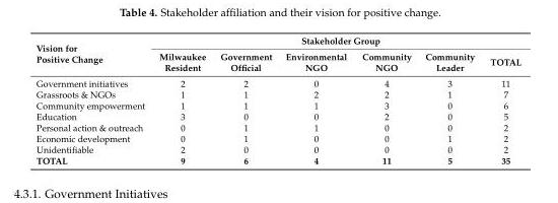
<table><thead><tr><td rowspan="2">Vision for Positive Change</td><td colspan="6">Stakeholder Group</td></tr><tr><td>Milwaukee Resident</td><td>Government Official</td><td>Environmental NGO</td><td>Community NGO</td><td>Community Leader</td><td>TOTAL</td></tr></thead><tbody><tr><td>Government initiatives</td><td>2</td><td>2</td><td>0</td><td>4</td><td>3</td><td>11</td></tr><tr><td>Grassroots &amp; NGOs</td><td>1</td><td>1</td><td>2</td><td>2</td><td>1</td><td>7</td></tr><tr><td>Community empowerment</td><td>1</td><td>1</td><td>1</td><td>3</td><td>0</td><td>6</td></tr><tr><td>Education</td><td>3</td><td>0</td><td>0</td><td>2</td><td>0</td><td>5</td></tr><tr><td>Personal action &amp; outreach</td><td>0</td><td>1</td><td>1</td><td>0</td><td>0</td><td>2</td></tr><tr><td>Economic development</td><td>0</td><td>1</td><td>0</td><td>0</td><td>1</td><td>2</td></tr><tr><td>Unidentifiable</td><td>2</td><td>0</td><td>0</td><td>0</td><td>0</td><td>2</td></tr><tr><td>TOTAL</td><td>9</td><td>6</td><td>4</td><td>11</td><td>5</td><td>35</td></tr></tbody></table>